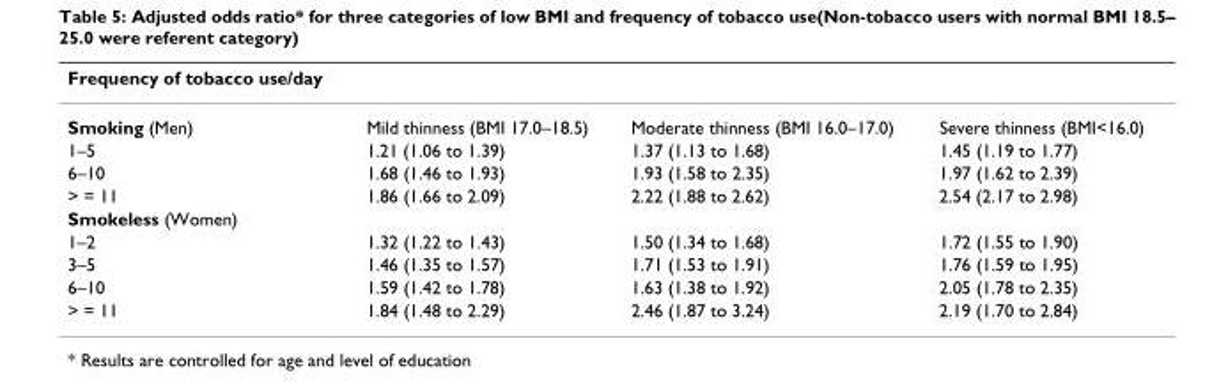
<table><thead><tr><td>Frequency of tobacco use/day</td><td></td><td></td><td></td></tr></thead><tbody><tr><td>Smoking (Men)</td><td>Mild thinness (BMI 17.0–18.5)</td><td>Moderate thinness (BMI 16.0–17.0)</td><td>Severe thinness (BMI&lt;16.0)</td></tr><tr><td>1–5</td><td>1.21 (1.06 to 1.39)</td><td>1.37 (1.13 to 1.68)</td><td>1.45 (1.19 to 1.77)</td></tr><tr><td>6–10</td><td>1.68 (1.46 to 1.93)</td><td>1.93 (1.58 to 2.35)</td><td>1.97 (1.62 to 2.39)</td></tr><tr><td>&gt; = 11</td><td>1.86 (1.66 to 2.09)</td><td>2.22 (1.88 to 2.62)</td><td>2.54 (2.17 to 2.98)</td></tr><tr><td colspan="4">Smokeless (Women)</td></tr><tr><td>1–2</td><td>1.32 (1.22 to 1.43)</td><td>1.50 (1.34 to 1.68)</td><td>1.72 (1.55 to 1.90)</td></tr><tr><td>3–5</td><td>1.46 (1.35 to 1.57)</td><td>1.71 (1.53 to 1.91)</td><td>1.76 (1.59 to 1.95)</td></tr><tr><td>6–10</td><td>1.59 (1.42 to 1.78)</td><td>1.63 (1.38 to 1.92)</td><td>2.05 (1.78 to 2.35)</td></tr><tr><td>&gt; = 11</td><td>1.84 (1.48 to 2.29)</td><td>2.46 (1.87 to 3.24)</td><td>2.19 (1.70 to 2.84)</td></tr></tbody></table>